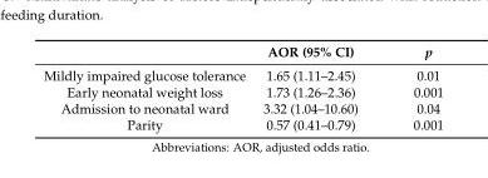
<table><thead><tr><td></td><td>AOR (95% CI)</td><td>p</td></tr></thead><tbody><tr><td>Mildly impaired glucose tolerance</td><td>1.65 (1.11–2.45)</td><td>0.01</td></tr><tr><td>Early neonatal weight loss</td><td>1.73 (1.26–2.36)</td><td>0.001</td></tr><tr><td>Admission to neonatal ward</td><td>3.32 (1.04–10.60)</td><td>0.04</td></tr><tr><td>Parity</td><td>0.57 (0.41–0.79)</td><td>0.001</td></tr></tbody></table>